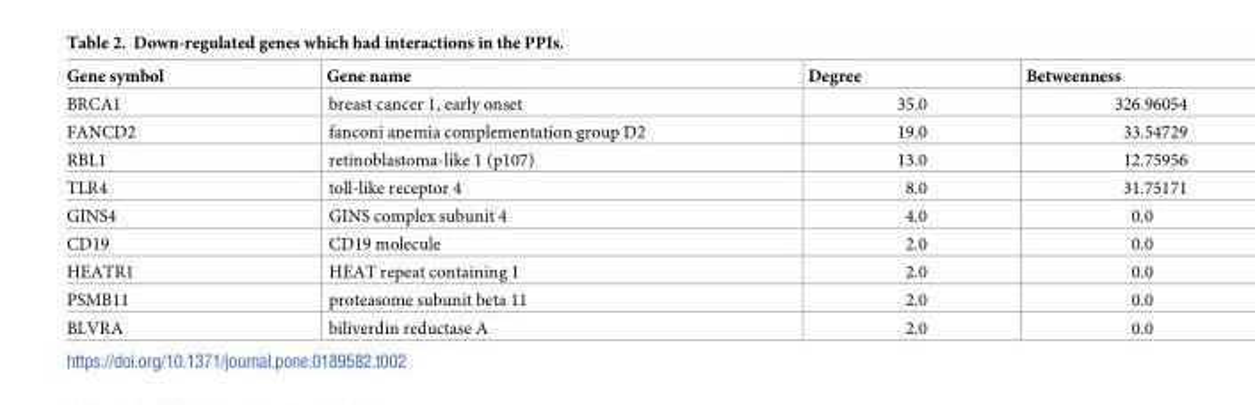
<table><thead><tr><td>Gene symbol</td><td>Gene name</td><td>Degree</td><td>Betweenness</td></tr></thead><tbody><tr><td>BRCA1</td><td>breast cancer 1, early onset</td><td>35.0</td><td>326.96054</td></tr><tr><td>FANCD2</td><td>fanconi anemia complementation group D2</td><td>19.0</td><td>33.54729</td></tr><tr><td>RBL1</td><td>retinoblastoma-like 1 (p107)</td><td>13.0</td><td>12.75956</td></tr><tr><td>TLR4</td><td>toll-like receptor 4</td><td>8.0</td><td>31.75171</td></tr><tr><td>GINS4</td><td>GINS complex subunit 4</td><td>4.0</td><td>0.0</td></tr><tr><td>CD19</td><td>CD19 molecule</td><td>2.0</td><td>0.0</td></tr><tr><td>HEATR1</td><td>HEAT repeat containing 1</td><td>2.0</td><td>0.0</td></tr><tr><td>PSMB11</td><td>proteasome subunit beta 11</td><td>2.0</td><td>0.0</td></tr><tr><td>BLVRA</td><td>biliverdin reductase A</td><td>2.0</td><td>0.0</td></tr></tbody></table>